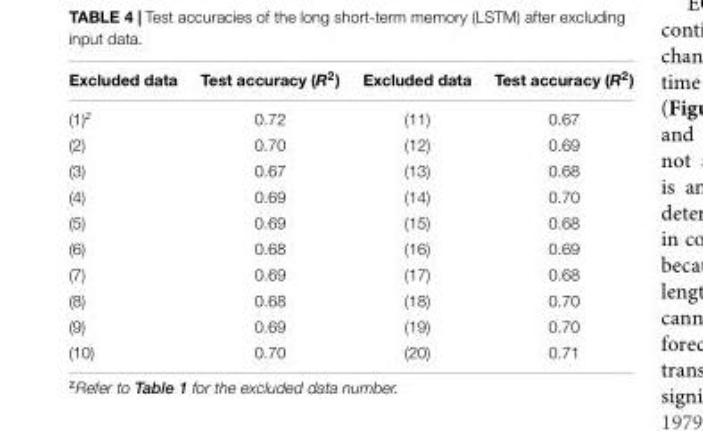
<table><thead><tr><td>Excluded data</td><td>Test accuracy (R<sup>2</sup>)</td><td>Excluded data</td><td>Test accuracy (R<sup>2</sup>)</td></tr></thead><tbody><tr><td>(1)<sup>z</sup></td><td>0.72</td><td>(11)</td><td>0.67</td></tr><tr><td>(2)</td><td>0.70</td><td>(12)</td><td>0.69</td></tr><tr><td>(3)</td><td>0.67</td><td>(13)</td><td>0.68</td></tr><tr><td>(4)</td><td>0.69</td><td>(14)</td><td>0.70</td></tr><tr><td>(5)</td><td>0.69</td><td>(15)</td><td>0.68</td></tr><tr><td>(6)</td><td>0.68</td><td>(16)</td><td>0.69</td></tr><tr><td>(7)</td><td>0.69</td><td>(17)</td><td>0.68</td></tr><tr><td>(8)</td><td>0.68</td><td>(18)</td><td>0.70</td></tr><tr><td>(9)</td><td>0.69</td><td>(19)</td><td>0.70</td></tr><tr><td>(10)</td><td>0.70</td><td>(20)</td><td>0.71</td></tr></tbody></table>